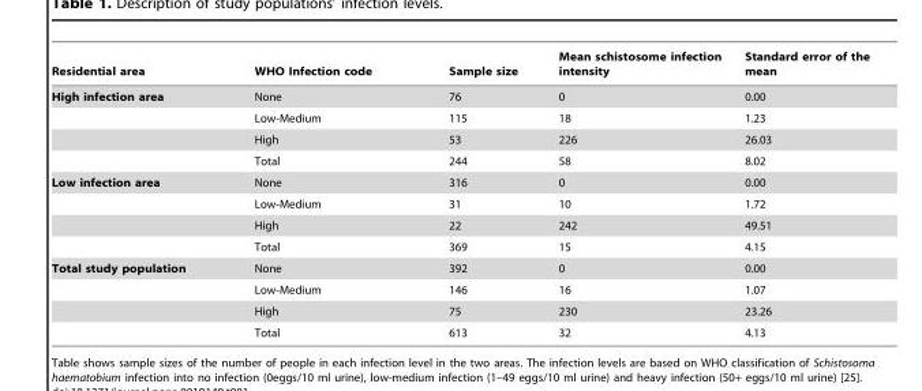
<table><thead><tr><td>Residential area</td><td>WHO Infection code</td><td>Sample size</td><td>Mean schistosome infection intensity</td><td>Standard error of the mean</td></tr></thead><tbody><tr><td rowspan="4">High infection area</td><td>None</td><td>76</td><td>0</td><td>0.00</td></tr><tr><td>Low-Medium</td><td>115</td><td>18</td><td>1.23</td></tr><tr><td>High</td><td>53</td><td>226</td><td>26.03</td></tr><tr><td>Total</td><td>244</td><td>58</td><td>8.02</td></tr><tr><td rowspan="4">Low infection area</td><td>None</td><td>316</td><td>0</td><td>0.00</td></tr><tr><td>Low-Medium</td><td>31</td><td>10</td><td>1.72</td></tr><tr><td>High</td><td>22</td><td>242</td><td>49.51</td></tr><tr><td>Total</td><td>369</td><td>15</td><td>4.15</td></tr><tr><td rowspan="4">Total study population</td><td>None</td><td>392</td><td>0</td><td>0.00</td></tr><tr><td>Low-Medium</td><td>146</td><td>16</td><td>1.07</td></tr><tr><td>High</td><td>75</td><td>230</td><td>23.26</td></tr><tr><td>Total</td><td>613</td><td>32</td><td>4.13</td></tr></tbody></table>